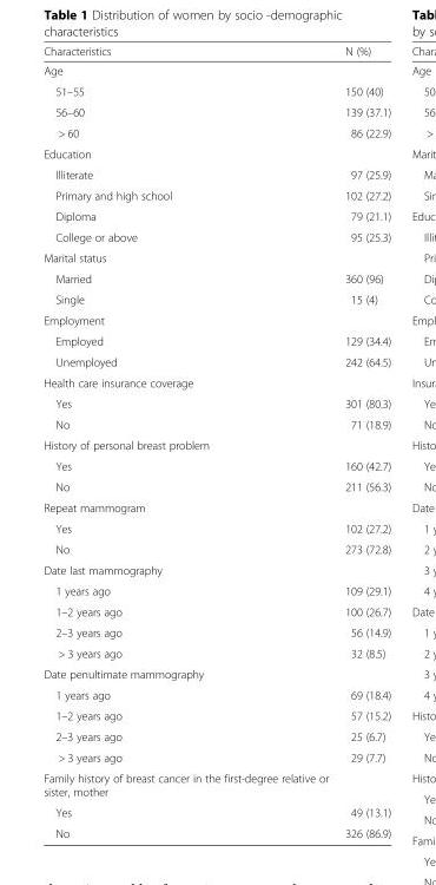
<table><thead><tr><td>Characteristics</td><td>N (%)</td></tr></thead><tbody><tr><td colspan="2">Age</td></tr><tr><td>51–55</td><td>150 (40)</td></tr><tr><td>56–60</td><td>139 (37.1)</td></tr><tr><td>&gt; 60</td><td>86 (22.9)</td></tr><tr><td colspan="2">Education</td></tr><tr><td>Illiterate</td><td>97 (25.9)</td></tr><tr><td>Primary and high school</td><td>102 (27.2)</td></tr><tr><td>Diploma</td><td>79 (21.1)</td></tr><tr><td>College or above</td><td>95 (25.3)</td></tr><tr><td colspan="2">Marital status</td></tr><tr><td>Married</td><td>360 (96)</td></tr><tr><td>Single</td><td>15 (4)</td></tr><tr><td colspan="2">Employment</td></tr><tr><td>Employed</td><td>129 (34.4)</td></tr><tr><td>Unemployed</td><td>242 (64.5)</td></tr><tr><td colspan="2">Health care insurance coverage</td></tr><tr><td>Yes</td><td>301 (80.3)</td></tr><tr><td>No</td><td>71 (18.9)</td></tr><tr><td colspan="2">History of personal breast problem</td></tr><tr><td>Yes</td><td>160 (42.7)</td></tr><tr><td>No</td><td>211 (56.3)</td></tr><tr><td colspan="2">Repeat mammogram</td></tr><tr><td>Yes</td><td>102 (27.2)</td></tr><tr><td>No</td><td>273 (72.8)</td></tr><tr><td colspan="2">Date last mammography</td></tr><tr><td>1 years ago</td><td>109 (29.1)</td></tr><tr><td>1–2 years ago</td><td>100 (26.7)</td></tr><tr><td>2–3 years ago</td><td>56 (14.9)</td></tr><tr><td>&gt; 3 years ago</td><td>32 (8.5)</td></tr><tr><td colspan="2">Date penultimate mammography</td></tr><tr><td>1 years ago</td><td>69 (18.4)</td></tr><tr><td>1–2 years ago</td><td>57 (15.2)</td></tr><tr><td>2–3 years ago</td><td>25 (6.7)</td></tr><tr><td>&gt; 3 years ago</td><td>29 (7.7)</td></tr><tr><td colspan="2">Family history of breast cancer in the first-degree relative or sister, mother</td></tr><tr><td>Yes</td><td>49 (13.1)</td></tr><tr><td>No</td><td>326 (86.9)</td></tr></tbody></table>